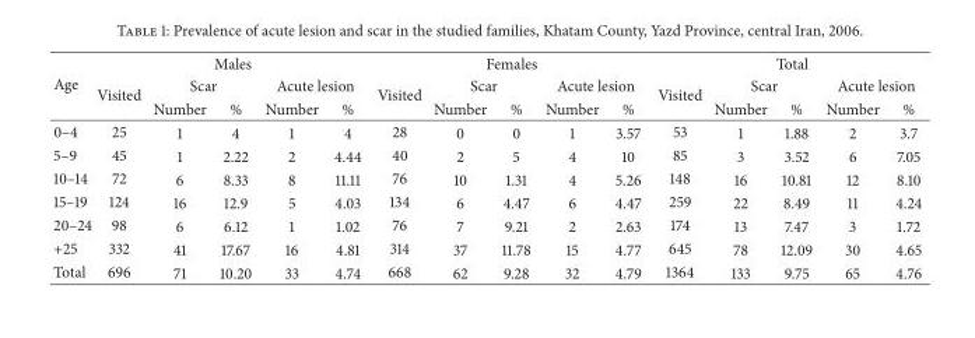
<table><thead><tr><td rowspan="3">Age</td><td colspan="5">Males</td><td colspan="5">Females</td><td colspan="5">Total</td></tr><tr><td rowspan="2">Visited</td><td colspan="2">Scar</td><td colspan="2">Acute lesion</td><td rowspan="2">Visited</td><td colspan="2">Scar</td><td colspan="2">Acute lesion</td><td rowspan="2">Visited</td><td colspan="2">Scar</td><td colspan="2">Acute lesion</td></tr><tr><td>Number</td><td>%</td><td>Number</td><td>%</td><td>Number</td><td>%</td><td>Number</td><td>%</td><td>Number</td><td>%</td><td>Number</td><td>%</td></tr></thead><tbody><tr><td>0–4</td><td>25</td><td>1</td><td>4</td><td>1</td><td>4</td><td>28</td><td>0</td><td>0</td><td>1</td><td>3.57</td><td>53</td><td>1</td><td>1.88</td><td>2</td><td>3.7</td></tr><tr><td>5–9</td><td>45</td><td>1</td><td>2.22</td><td>2</td><td>4.44</td><td>40</td><td>2</td><td>5</td><td>4</td><td>10</td><td>85</td><td>3</td><td>3.52</td><td>6</td><td>7.05</td></tr><tr><td>10–14</td><td>72</td><td>6</td><td>8.33</td><td>8</td><td>11.11</td><td>76</td><td>10</td><td>1.31</td><td>4</td><td>5.26</td><td>148</td><td>16</td><td>10.81</td><td>12</td><td>8.10</td></tr><tr><td>15–19</td><td>124</td><td>16</td><td>12.9</td><td>5</td><td>4.03</td><td>134</td><td>6</td><td>4.47</td><td>6</td><td>4.47</td><td>259</td><td>22</td><td>8.49</td><td>11</td><td>4.24</td></tr><tr><td>20–24</td><td>98</td><td>6</td><td>6.12</td><td>1</td><td>1.02</td><td>76</td><td>7</td><td>9.21</td><td>2</td><td>2.63</td><td>174</td><td>13</td><td>7.47</td><td>3</td><td>1.72</td></tr><tr><td>+25</td><td>332</td><td>41</td><td>17.67</td><td>16</td><td>4.81</td><td>314</td><td>37</td><td>11.78</td><td>15</td><td>4.77</td><td>645</td><td>78</td><td>12.09</td><td>30</td><td>4.65</td></tr><tr><td>Total</td><td>696</td><td>71</td><td>10.20</td><td>33</td><td>4.74</td><td>668</td><td>62</td><td>9.28</td><td>32</td><td>4.79</td><td>1364</td><td>133</td><td>9.75</td><td>65</td><td>4.76</td></tr></tbody></table>